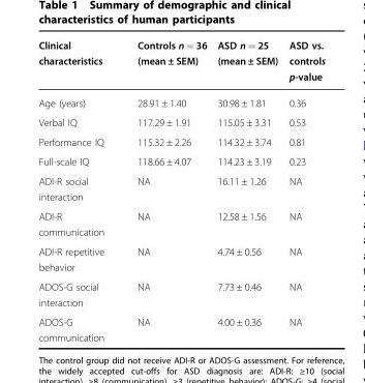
<table><thead><tr><td>Clinical characteristics</td><td>Controls n = 36 (mean ± SEM)</td><td>ASD n = 25 (mean ± SEM)</td><td>ASD vs. controls p-value</td></tr></thead><tbody><tr><td>Age (years)</td><td>28.91 ± 1.40</td><td>30.98 ± 1.81</td><td>0.36</td></tr><tr><td>Verbal IQ</td><td>117.29 ± 1.91</td><td>115.05 ± 3.31</td><td>0.53</td></tr><tr><td>Performance IQ</td><td>115.32 ± 2.26</td><td>114.32 ± 3.74</td><td>0.81</td></tr><tr><td>Full-scale IQ</td><td>118.66 ± 4.07</td><td>114.23 ± 3.19</td><td>0.23</td></tr><tr><td>ADI-R social interaction</td><td>NA</td><td>16.11 ± 1.26</td><td>NA</td></tr><tr><td>ADI-R communication</td><td>NA</td><td>12.58 ± 1.56</td><td>NA</td></tr><tr><td>ADI-R repetitive behavior</td><td>NA</td><td>4.74 ± 0.56</td><td>NA</td></tr><tr><td>ADOS-G social interaction</td><td>NA</td><td>7.73 ± 0.46</td><td>NA</td></tr><tr><td>ADOS-G communication</td><td>NA</td><td>4.00 ± 0.36</td><td>NA</td></tr></tbody></table>